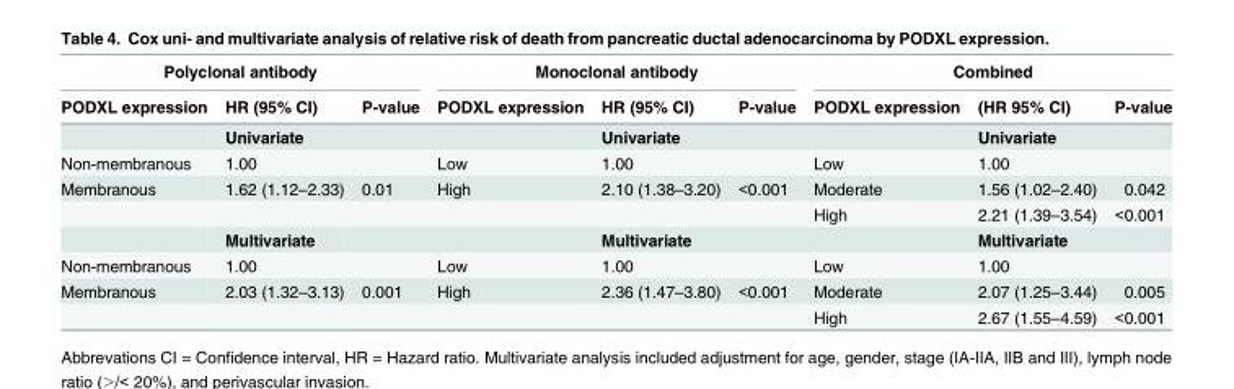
<table><thead><tr><td colspan="3">Polyclonal antibody</td><td colspan="3">Monoclonal antibody</td><td colspan="3">Combined</td></tr><tr><td>PODXL expression</td><td>HR (95% CI)</td><td>P-value</td><td>PODXL expression</td><td>HR (95% CI)</td><td>P-value</td><td>PODXL expression</td><td>(HR 95% CI)</td><td>P-value</td></tr></thead><tbody><tr><td></td><td>Univariate</td><td></td><td></td><td>Univariate</td><td></td><td></td><td>Univariate</td><td></td></tr><tr><td>Non-membranous</td><td>1.00</td><td></td><td>Low</td><td>1.00</td><td></td><td>Low</td><td>1.00</td><td></td></tr><tr><td rowspan="3">Membranous</td><td>1.62 (1.12–2.33)</td><td>0.01</td><td>High</td><td>2.10 (1.38–3.20)</td><td>&lt;0.001</td><td>Moderate</td><td>1.56 (1.02–2.40)</td><td>0.042</td></tr><tr><td></td><td></td><td></td><td></td><td></td><td>High</td><td>2.21 (1.39–3.54)</td><td>&lt;0.001</td></tr><tr><td>Multivariate</td><td></td><td></td><td>Multivariate</td><td></td><td></td><td>Multivariate</td><td></td></tr><tr><td>Non-membranous</td><td>1.00</td><td></td><td>Low</td><td>1.00</td><td></td><td>Low</td><td>1.00</td><td></td></tr><tr><td rowspan="2">Membranous</td><td>2.03 (1.32–3.13)</td><td>0.001</td><td>High</td><td>2.36 (1.47–3.80)</td><td>&lt;0.001</td><td>Moderate</td><td>2.07 (1.25–3.44)</td><td>0.005</td></tr><tr><td></td><td></td><td></td><td></td><td></td><td>High</td><td>2.67 (1.55–4.59)</td><td>&lt;0.001</td></tr></tbody></table>